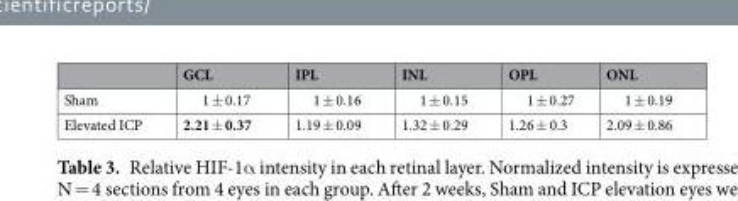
<table><thead><tr><td></td><td>GCL</td><td>IPL</td><td>INL</td><td>OPL</td><td>ONL</td></tr></thead><tbody><tr><td>Sham</td><td>1 ± 0.17</td><td>1 ± 0.16</td><td>1 ± 0.15</td><td>1 ± 0.27</td><td>1 ± 0.19</td></tr><tr><td>Elevated ICP</td><td>2.21 ± 0.37</td><td>1.19 ± 0.09</td><td>1.32 ± 0.29</td><td>1.26 ± 0.3</td><td>2.09 ± 0.86</td></tr></tbody></table>